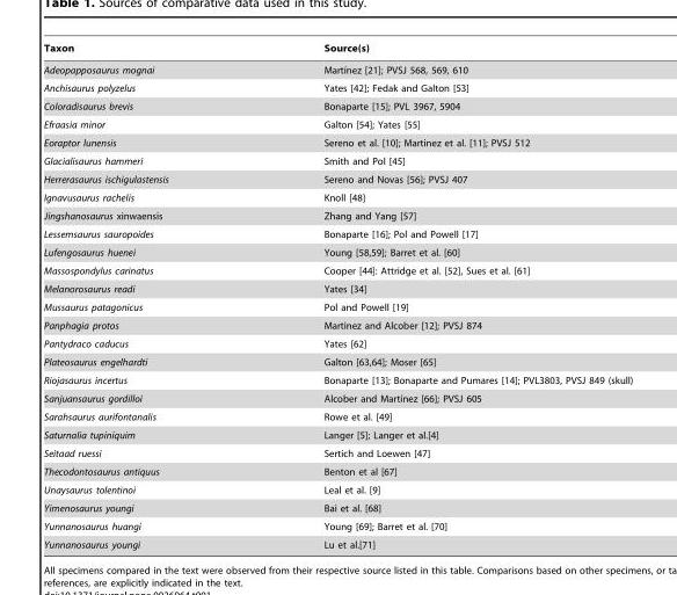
<table><thead><tr><td>Taxon</td><td>Source(s)</td></tr></thead><tbody><tr><td>Adeopapposaurus mognai</td><td>Martı´nez [21]; PVSJ 568, 569, 610</td></tr><tr><td>Anchisaurus polyzelus</td><td>Yates [42]; Fedak and Galton [53]</td></tr><tr><td>Coloradisaurus brevis</td><td>Bonaparte [15]; PVL 3967, 5904</td></tr><tr><td>Efraasia minor</td><td>Galton [54]; Yates [55]</td></tr><tr><td>Eoraptor lunensis</td><td>Sereno et al. [10]; Martinez et al. [11]; PVSJ 512</td></tr><tr><td>Glacialisaurus hammeri</td><td>Smith and Pol [45]</td></tr><tr><td>Herrerasaurus ischigulastensis</td><td>Sereno and Novas [56]; PVSJ 407</td></tr><tr><td>Ignavusaurus rachelis</td><td>Knoll [48]</td></tr><tr><td>Jingshanosaurus xinwaensis</td><td>Zhang and Yang [57]</td></tr><tr><td>Lessemsaurus sauropoides</td><td>Bonaparte [16]; Pol and Powell [17]</td></tr><tr><td>Lufengosaurus huenei</td><td>Young [58,59]; Barret et al. [60]</td></tr><tr><td>Massospondylus carinatus</td><td>Cooper [44]: Attridge et al. [52], Sues et al. [61]</td></tr><tr><td>Melanorosaurus readi</td><td>Yates [34]</td></tr><tr><td>Mussaurus patagonicus</td><td>Pol and Powell [19]</td></tr><tr><td>Panphagia protos</td><td>Martinez and Alcober [12]; PVSJ 874</td></tr><tr><td>Pantydraco caducus</td><td>Yates [62]</td></tr><tr><td>Plateosaurus engelhardti</td><td>Galton [63,64]; Moser [65]</td></tr><tr><td>Riojasaurus incertus</td><td>Bonaparte [13]; Bonaparte and Pumares [14]; PVL3803, PVSJ 849 (skull)</td></tr><tr><td>Sanjuansaurus gordilloi</td><td>Alcober and Martı´nez [66]; PVSJ 605</td></tr><tr><td>Sarahsaurus aurifontanalis</td><td>Rowe et al. [49]</td></tr><tr><td>Saturnalia tupiniquim</td><td>Langer [5]; Langer et al.[4]</td></tr><tr><td>Seitaad ruessi</td><td>Sertich and Loewen [47]</td></tr><tr><td>Thecodontosaurus antiquus</td><td>Benton et al [67]</td></tr><tr><td>Unaysaurus tolentinoi</td><td>Leal et al. [9]</td></tr><tr><td>Yimenosaurus youngi</td><td>Bai et al. [68]</td></tr><tr><td>Yunnanosaurus huangi</td><td>Young [69]; Barret et al. [70]</td></tr><tr><td>Yunnanosaurus youngi</td><td>Lu et al.[71]</td></tr></tbody></table>